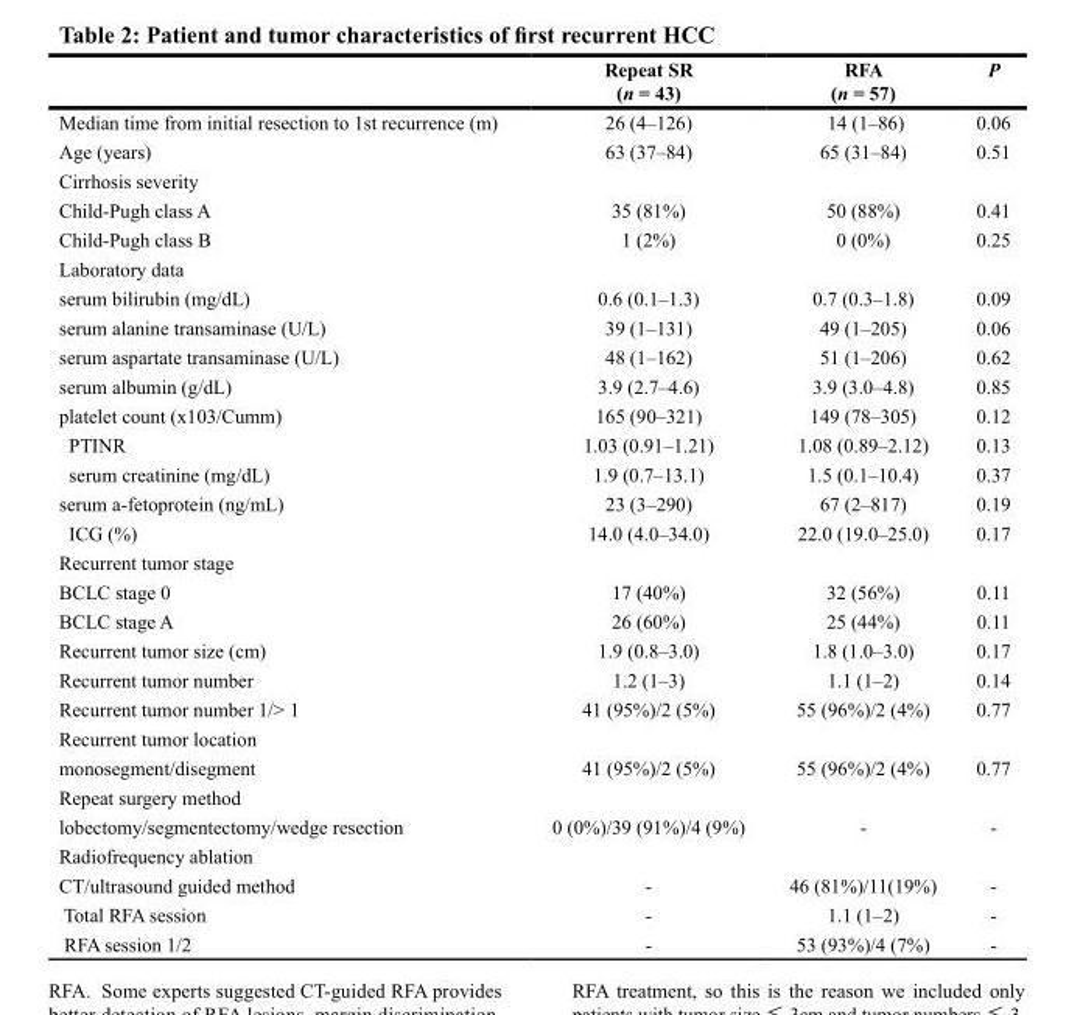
<table><thead><tr><td></td><td>Repeat SR (n = 43)</td><td>RFA (n = 57)</td><td>P</td></tr></thead><tbody><tr><td>Median time from initial resection to 1st recurrence (m)</td><td>26 (4–126)</td><td>14 (1–86)</td><td>0.06</td></tr><tr><td>Age (years)</td><td>63 (37–84)</td><td>65 (31–84)</td><td>0.51</td></tr><tr><td colspan="4">Cirrhosis severity</td></tr><tr><td>Child-Pugh class A</td><td>35 (81%)</td><td>50 (88%)</td><td>0.41</td></tr><tr><td>Child-Pugh class B</td><td>1 (2%)</td><td>0 (0%)</td><td>0.25</td></tr><tr><td colspan="4">Laboratory data</td></tr><tr><td>serum bilirubin (mg/dL)</td><td>0.6 (0.1–1.3)</td><td>0.7 (0.3–1.8)</td><td>0.09</td></tr><tr><td>serum alanine transaminase (U/L)</td><td>39 (1–131)</td><td>49 (1–205)</td><td>0.06</td></tr><tr><td>serum aspartate transaminase (U/L)</td><td>48 (1–162)</td><td>51 (1–206)</td><td>0.62</td></tr><tr><td>serum albumin (g/dL)</td><td>3.9 (2.7–4.6)</td><td>3.9 (3.0–4.8)</td><td>0.85</td></tr><tr><td>platelet count (x103/Cumm)</td><td>165 (90–321)</td><td>149 (78–305)</td><td>0.12</td></tr><tr><td>PTINR</td><td>1.03 (0.91–1.21)</td><td>1.08 (0.89–2.12)</td><td>0.13</td></tr><tr><td>serum creatinine (mg/dL)</td><td>1.9 (0.7–13.1)</td><td>1.5 (0.1–10.4)</td><td>0.37</td></tr><tr><td>serum a-fetoprotein (ng/mL)</td><td>23 (3–290)</td><td>67 (2–817)</td><td>0.19</td></tr><tr><td>ICG (%)</td><td>14.0 (4.0–34.0)</td><td>22.0 (19.0–25.0)</td><td>0.17</td></tr><tr><td colspan="4">Recurrent tumor stage</td></tr><tr><td>BCLC stage 0</td><td>17 (40%)</td><td>32 (56%)</td><td>0.11</td></tr><tr><td>BCLC stage A</td><td>26 (60%)</td><td>25 (44%)</td><td>0.11</td></tr><tr><td>Recurrent tumor size (cm)</td><td>1.9 (0.8–3.0)</td><td>1.8 (1.0–3.0)</td><td>0.17</td></tr><tr><td>Recurrent tumor number</td><td>1.2 (1–3)</td><td>1.1 (1–2)</td><td>0.14</td></tr><tr><td>Recurrent tumor number 1/&gt; 1</td><td>41 (95%)/2 (5%)</td><td>55 (96%)/2 (4%)</td><td>0.77</td></tr><tr><td colspan="4">Recurrent tumor location</td></tr><tr><td>monosegment/disegment</td><td>41 (95%)/2 (5%)</td><td>55 (96%)/2 (4%)</td><td>0.77</td></tr><tr><td colspan="4">Repeat surgery method</td></tr><tr><td>lobectomy/segmentectomy/wedge resection</td><td>0 (0%)/39 (91%)/4 (9%)</td><td>-</td><td>-</td></tr><tr><td colspan="4">Radiofrequency ablation</td></tr><tr><td>CT/ultrasound guided method</td><td>-</td><td>46 (81%)/11(19%)</td><td>-</td></tr><tr><td>Total RFA session</td><td>-</td><td>1.1 (1–2)</td><td>-</td></tr><tr><td>RFA session 1/2</td><td>-</td><td>53 (93%)/4 (7%)</td><td>-</td></tr></tbody></table>